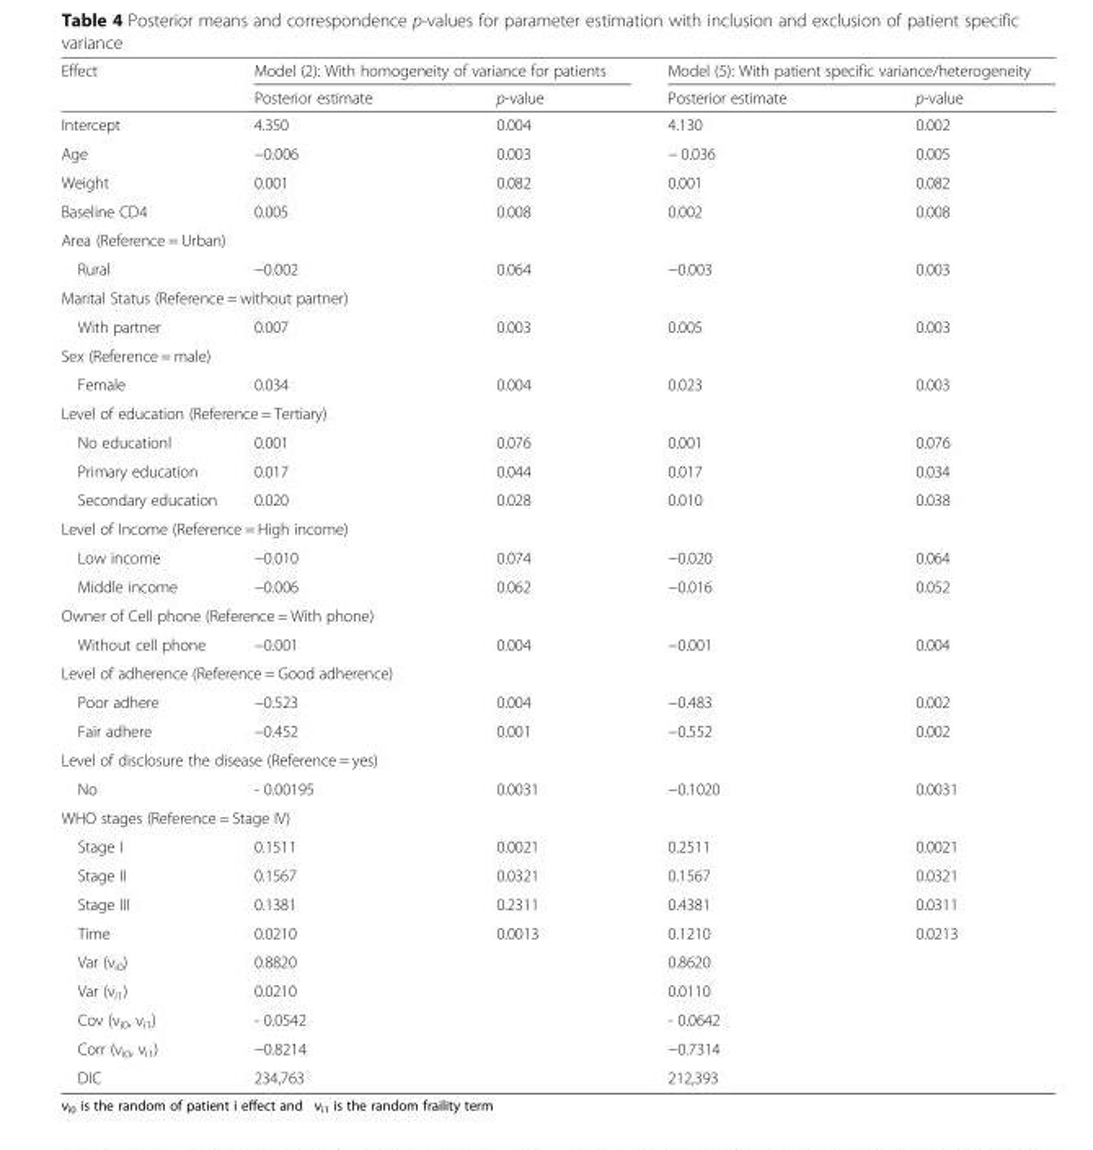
<table><thead><tr><td rowspan="2">Effect</td><td colspan="2">Model (2): With homogeneity of variance for patients</td><td colspan="2">Model (5): With patient specific variance/heterogeneity</td></tr><tr><td>Posterior estimate</td><td>p-value</td><td>Posterior estimate</td><td>p-value</td></tr></thead><tbody><tr><td>Intercept</td><td>4.350</td><td>0.004</td><td>4.130</td><td>0.002</td></tr><tr><td>Age</td><td>−0.006</td><td>0.003</td><td>− 0.036</td><td>0.005</td></tr><tr><td>Weight</td><td>0.001</td><td>0.082</td><td>0.001</td><td>0.082</td></tr><tr><td>Baseline CD4</td><td>0.005</td><td>0.008</td><td>0.002</td><td>0.008</td></tr><tr><td colspan="5">Area (Reference = Urban)</td></tr><tr><td>Rural</td><td>−0.002</td><td>0.064</td><td>−0.003</td><td>0.003</td></tr><tr><td colspan="5">Marital Status (Reference = without partner)</td></tr><tr><td>With partner</td><td>0.007</td><td>0.003</td><td>0.005</td><td>0.003</td></tr><tr><td colspan="5">Sex (Reference = male)</td></tr><tr><td>Female</td><td>0.034</td><td>0.004</td><td>0.023</td><td>0.003</td></tr><tr><td colspan="5">Level of education (Reference = Tertiary)</td></tr><tr><td>No educationl</td><td>0.001</td><td>0.076</td><td>0.001</td><td>0.076</td></tr><tr><td>Primary education</td><td>0.017</td><td>0.044</td><td>0.017</td><td>0.034</td></tr><tr><td>Secondary education</td><td>0.020</td><td>0.028</td><td>0.010</td><td>0.038</td></tr><tr><td colspan="5">Level of Income (Reference = High income)</td></tr><tr><td>Low income</td><td>−0.010</td><td>0.074</td><td>−0.020</td><td>0.064</td></tr><tr><td>Middle income</td><td>−0.006</td><td>0.062</td><td>−0.016</td><td>0.052</td></tr><tr><td colspan="5">Owner of Cell phone (Reference = With phone)</td></tr><tr><td>Without cell phone</td><td>−0.001</td><td>0.004</td><td>−0.001</td><td>0.004</td></tr><tr><td colspan="5">Level of adherence (Reference = Good adherence)</td></tr><tr><td>Poor adhere</td><td>−0.523</td><td>0.004</td><td>−0.483</td><td>0.002</td></tr><tr><td>Fair adhere</td><td>−0.452</td><td>0.001</td><td>−0.552</td><td>0.002</td></tr><tr><td colspan="5">Level of disclosure the disease (Reference = yes)</td></tr><tr><td>No</td><td>- 0.00195</td><td>0.0031</td><td>−0.1020</td><td>0.0031</td></tr><tr><td colspan="5">WHO stages (Reference = Stage IV)</td></tr><tr><td>Stage I</td><td>0.1511</td><td>0.0021</td><td>0.2511</td><td>0.0021</td></tr><tr><td>Stage II</td><td>0.1567</td><td>0.0321</td><td>0.1567</td><td>0.0321</td></tr><tr><td>Stage III</td><td>0.1381</td><td>0.2311</td><td>0.4381</td><td>0.0311</td></tr><tr><td>Time</td><td>0.0210</td><td>0.0013</td><td>0.1210</td><td>0.0213</td></tr><tr><td>Var (ν<sub>i0</sub>)</td><td>0.8820</td><td></td><td>0.8620</td><td></td></tr><tr><td>Var (ν<sub>i1</sub>)</td><td>0.0210</td><td></td><td>0.0110</td><td></td></tr><tr><td>Cov (ν<sub>i0</sub>, ν<sub>i1</sub>)</td><td>- 0.0542</td><td></td><td>- 0.0642</td><td></td></tr><tr><td>Corr (ν<sub>i0</sub>, ν<sub>i1</sub>)</td><td>−0.8214</td><td></td><td>−0.7314</td><td></td></tr><tr><td>DIC</td><td colspan="2">234,763</td><td colspan="2">212,393</td></tr></tbody></table>